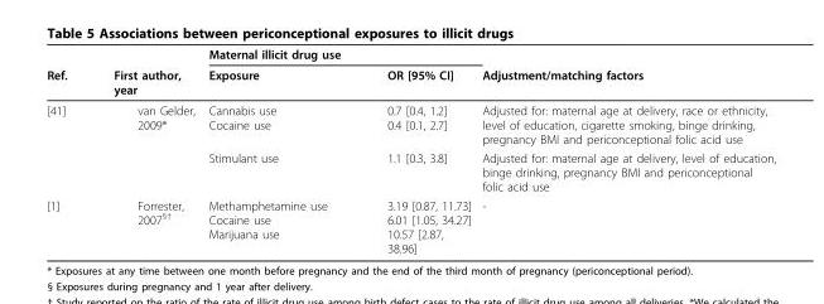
<table><thead><tr><td rowspan="2">Ref.</td><td rowspan="2">First author, year</td><td rowspan="2">Maternal illicit drug use Exposure</td><td rowspan="2">OR [95% CI]</td><td rowspan="2">Adjustment/matching factors</td></tr><tr></tr></thead><tbody><tr><td rowspan="2">[41]</td><td>van Gelder, 2009*</td><td>Cannabis use Cocaine use</td><td>0.7 [0.4, 1.2] 0.4 [0.1, 2.7]</td><td>Adjusted for: maternal age at delivery, race or ethnicity, level of education, cigarette smoking, binge drinking, pregnancy BMI and periconceptional folic acid use</td></tr><tr><td></td><td>Stimulant use</td><td>1.1 [0.3, 3.8]</td><td>Adjusted for: maternal age at delivery, level of education, binge drinking, pregnancy BMI and periconceptional folic acid use</td></tr><tr><td>[1]</td><td>Forrester, 2007<sup>§†</sup></td><td>Methamphetamine use Cocaine use Marijuana use</td><td>3.19 [0.87, 11.73] 6.01 [1.05, 34.27] 10.57 [2.87, 38.96]</td><td>-</td></tr></tbody></table>